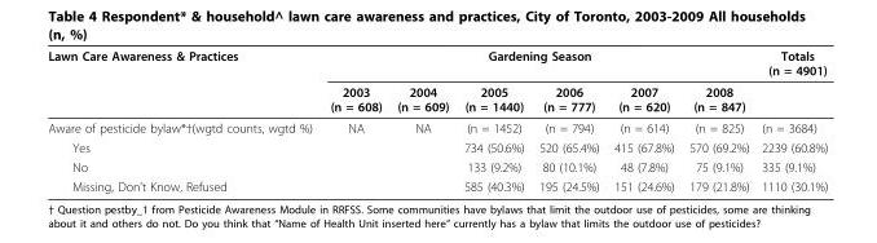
<table><thead><tr><td rowspan="2">Lawn Care Awareness &amp; Practices</td><td colspan="6">Gardening Season</td><td rowspan="2">Totals (n = 4901)</td></tr><tr><td>2003 (n = 608)</td><td>2004 (n = 609)</td><td>2005 (n = 1440)</td><td>2006 (n = 777)</td><td>2007 (n = 620)</td><td>2008 (n = 847)</td></tr></thead><tbody><tr><td>Aware of pesticide bylaw*†(wgtd counts, wgtd %)</td><td>NA</td><td>NA</td><td>(n = 1452)</td><td>(n = 794)</td><td>(n = 614)</td><td>(n = 825)</td><td>(n = 3684)</td></tr><tr><td>Yes</td><td></td><td></td><td>734 (50.6%)</td><td>520 (65.4%)</td><td>415 (67.8%)</td><td>570 (69.2%)</td><td>2239 (60.8%)</td></tr><tr><td>No</td><td></td><td></td><td>133 (9.2%)</td><td>80 (10.1%)</td><td>48 (7.8%)</td><td>75 (9.1%)</td><td>335 (9.1%)</td></tr><tr><td>Missing, Don’t Know, Refused</td><td></td><td></td><td>585 (40.3%)</td><td>195 (24.5%)</td><td>151 (24.6%)</td><td>179 (21.8%)</td><td>1110 (30.1%)</td></tr></tbody></table>